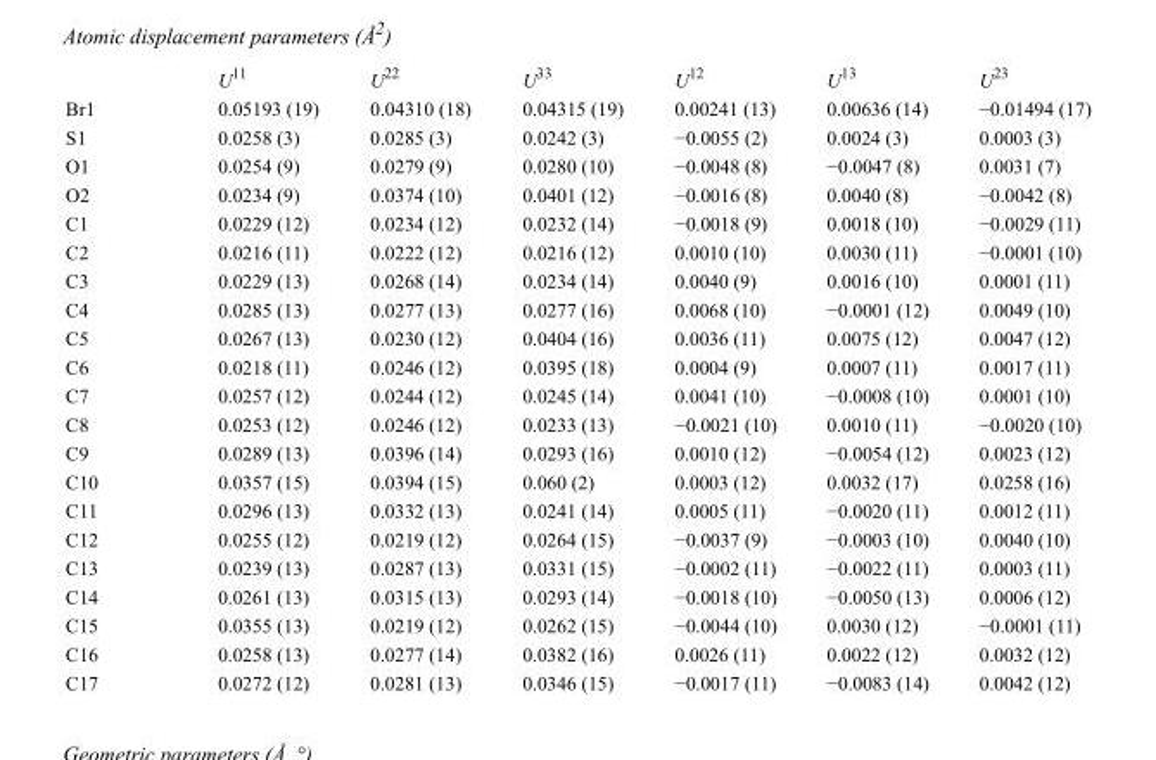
<table><thead><tr><td></td><td>U<sup>11</sup></td><td>U<sup>22</sup></td><td>U<sup>33</sup></td><td>U<sup>12</sup></td><td>U<sup>13</sup></td><td>U<sup>23</sup></td></tr></thead><tbody><tr><td>Br1</td><td>0.05193 (19)</td><td>0.04310 (18)</td><td>0.04315 (19)</td><td>0.00241 (13)</td><td>0.00636 (14)</td><td>−0.01494 (17)</td></tr><tr><td>S1</td><td>0.0258 (3)</td><td>0.0285 (3)</td><td>0.0242 (3)</td><td>−0.0055 (2)</td><td>0.0024 (3)</td><td>0.0003 (3)</td></tr><tr><td>O1</td><td>0.0254 (9)</td><td>0.0279 (9)</td><td>0.0280 (10)</td><td>−0.0048 (8)</td><td>−0.0047 (8)</td><td>0.0031 (7)</td></tr><tr><td>O2</td><td>0.0234 (9)</td><td>0.0374 (10)</td><td>0.0401 (12)</td><td>−0.0016 (8)</td><td>0.0040 (8)</td><td>−0.0042 (8)</td></tr><tr><td>C1</td><td>0.0229 (12)</td><td>0.0234 (12)</td><td>0.0232 (14)</td><td>−0.0018 (9)</td><td>0.0018 (10)</td><td>−0.0029 (11)</td></tr><tr><td>C2</td><td>0.0216 (11)</td><td>0.0222 (12)</td><td>0.0216 (12)</td><td>0.0010 (10)</td><td>0.0030 (11)</td><td>−0.0001 (10)</td></tr><tr><td>C3</td><td>0.0229 (13)</td><td>0.0268 (14)</td><td>0.0234 (14)</td><td>0.0040 (9)</td><td>0.0016 (10)</td><td>0.0001 (11)</td></tr><tr><td>C4</td><td>0.0285 (13)</td><td>0.0277 (13)</td><td>0.0277 (16)</td><td>0.0068 (10)</td><td>−0.0001 (12)</td><td>0.0049 (10)</td></tr><tr><td>C5</td><td>0.0267 (13)</td><td>0.0230 (12)</td><td>0.0404 (16)</td><td>0.0036 (11)</td><td>0.0075 (12)</td><td>0.0047 (12)</td></tr><tr><td>C6</td><td>0.0218 (11)</td><td>0.0246 (12)</td><td>0.0395 (18)</td><td>0.0004 (9)</td><td>0.0007 (11)</td><td>0.0017 (11)</td></tr><tr><td>C7</td><td>0.0257 (12)</td><td>0.0244 (12)</td><td>0.0245 (14)</td><td>0.0041 (10)</td><td>−0.0008 (10)</td><td>0.0001 (10)</td></tr><tr><td>C8</td><td>0.0253 (12)</td><td>0.0246 (12)</td><td>0.0233 (13)</td><td>−0.0021 (10)</td><td>0.0010 (11)</td><td>−0.0020 (10)</td></tr><tr><td>C9</td><td>0.0289 (13)</td><td>0.0396 (14)</td><td>0.0293 (16)</td><td>0.0010 (12)</td><td>−0.0054 (12)</td><td>0.0023 (12)</td></tr><tr><td>C10</td><td>0.0357 (15)</td><td>0.0394 (15)</td><td>0.060 (2)</td><td>0.0003 (12)</td><td>0.0032 (17)</td><td>0.0258 (16)</td></tr><tr><td>C11</td><td>0.0296 (13)</td><td>0.0332 (13)</td><td>0.0241 (14)</td><td>0.0005 (11)</td><td>−0.0020 (11)</td><td>0.0012 (11)</td></tr><tr><td>C12</td><td>0.0255 (12)</td><td>0.0219 (12)</td><td>0.0264 (15)</td><td>−0.0037 (9)</td><td>−0.0003 (10)</td><td>0.0040 (10)</td></tr><tr><td>C13</td><td>0.0239 (13)</td><td>0.0287 (13)</td><td>0.0331 (15)</td><td>−0.0002 (11)</td><td>−0.0022 (11)</td><td>0.0003 (11)</td></tr><tr><td>C14</td><td>0.0261 (13)</td><td>0.0315 (13)</td><td>0.0293 (14)</td><td>−0.0018 (10)</td><td>−0.0050 (13)</td><td>0.0006 (12)</td></tr><tr><td>C15</td><td>0.0355 (13)</td><td>0.0219 (12)</td><td>0.0262 (15)</td><td>−0.0044 (10)</td><td>0.0030 (12)</td><td>−0.0001 (11)</td></tr><tr><td>C16</td><td>0.0258 (13)</td><td>0.0277 (14)</td><td>0.0382 (16)</td><td>0.0026 (11)</td><td>0.0022 (12)</td><td>0.0032 (12)</td></tr><tr><td>C17</td><td>0.0272 (12)</td><td>0.0281 (13)</td><td>0.0346 (15)</td><td>−0.0017 (11)</td><td>−0.0083 (14)</td><td>0.0042 (12)</td></tr></tbody></table>